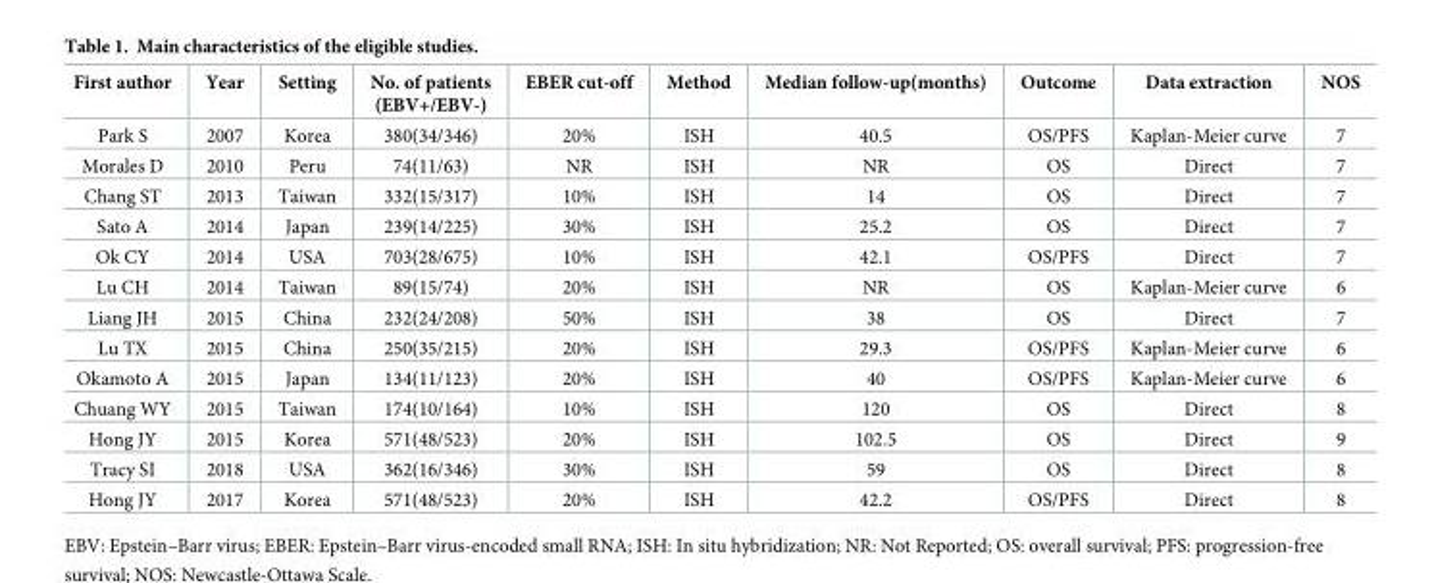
<table><thead><tr><td>First author</td><td>Year</td><td>Setting</td><td>No. of patients (EBV+/EBV-)</td><td>EBER cut-off</td><td>Method</td><td>Median follow-up(months)</td><td>Outcome</td><td>Data extraction</td><td>NOS</td></tr></thead><tbody><tr><td>Park S</td><td>2007</td><td>Korea</td><td>380(34/346)</td><td>20%</td><td>ISH</td><td>40.5</td><td>OS/PFS</td><td>Kaplan-Meier curve</td><td>7</td></tr><tr><td>Morales D</td><td>2010</td><td>Peru</td><td>74(11/63)</td><td>NR</td><td>ISH</td><td>NR</td><td>OS</td><td>Direct</td><td>7</td></tr><tr><td>Chang ST</td><td>2013</td><td>Taiwan</td><td>332(15/317)</td><td>10%</td><td>ISH</td><td>14</td><td>OS</td><td>Direct</td><td>7</td></tr><tr><td>Sato A</td><td>2014</td><td>Japan</td><td>239(14/225)</td><td>30%</td><td>ISH</td><td>25.2</td><td>OS</td><td>Direct</td><td>7</td></tr><tr><td>Ok CY</td><td>2014</td><td>USA</td><td>703(28/675)</td><td>10%</td><td>ISH</td><td>42.1</td><td>OS/PFS</td><td>Direct</td><td>7</td></tr><tr><td>Lu CH</td><td>2014</td><td>Taiwan</td><td>89(15/74)</td><td>20%</td><td>ISH</td><td>NR</td><td>OS</td><td>Kaplan-Meier curve</td><td>6</td></tr><tr><td>Liang JH</td><td>2015</td><td>China</td><td>232(24/208)</td><td>50%</td><td>ISH</td><td>38</td><td>OS</td><td>Direct</td><td>7</td></tr><tr><td>Lu TX</td><td>2015</td><td>China</td><td>250(35/215)</td><td>20%</td><td>ISH</td><td>29.3</td><td>OS/PFS</td><td>Kaplan-Meier curve</td><td>6</td></tr><tr><td>Okamoto A</td><td>2015</td><td>Japan</td><td>134(11/123)</td><td>20%</td><td>ISH</td><td>40</td><td>OS/PFS</td><td>Kaplan-Meier curve</td><td>6</td></tr><tr><td>Chuang WY</td><td>2015</td><td>Taiwan</td><td>174(10/164)</td><td>10%</td><td>ISH</td><td>120</td><td>OS</td><td>Direct</td><td>8</td></tr><tr><td>Hong JY</td><td>2015</td><td>Korea</td><td>571(48/523)</td><td>20%</td><td>ISH</td><td>102.5</td><td>OS</td><td>Direct</td><td>9</td></tr><tr><td>Tracy SI</td><td>2018</td><td>USA</td><td>362(16/346)</td><td>30%</td><td>ISH</td><td>59</td><td>OS</td><td>Direct</td><td>8</td></tr><tr><td>Hong JY</td><td>2017</td><td>Korea</td><td>571(48/523)</td><td>20%</td><td>ISH</td><td>42.2</td><td>OS/PFS</td><td>Direct</td><td>8</td></tr></tbody></table>